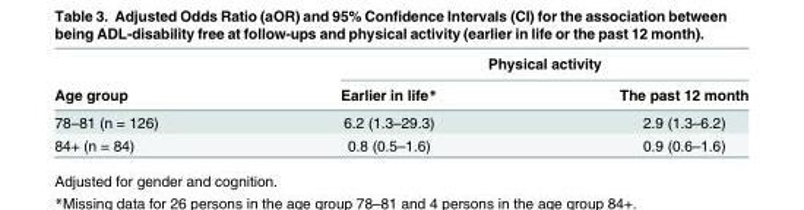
<table><thead><tr><td rowspan="2">Age group</td><td colspan="2">Physical activity</td></tr><tr><td>Earlier in life*</td><td>The past 12 month</td></tr></thead><tbody><tr><td>78–81 (n = 126)</td><td>6.2 (1.3–29.3)</td><td>2.9 (1.3–6.2)</td></tr><tr><td>84+ (n = 84)</td><td>0.8 (0.5–1.6)</td><td>0.9 (0.6–1.6)</td></tr></tbody></table>